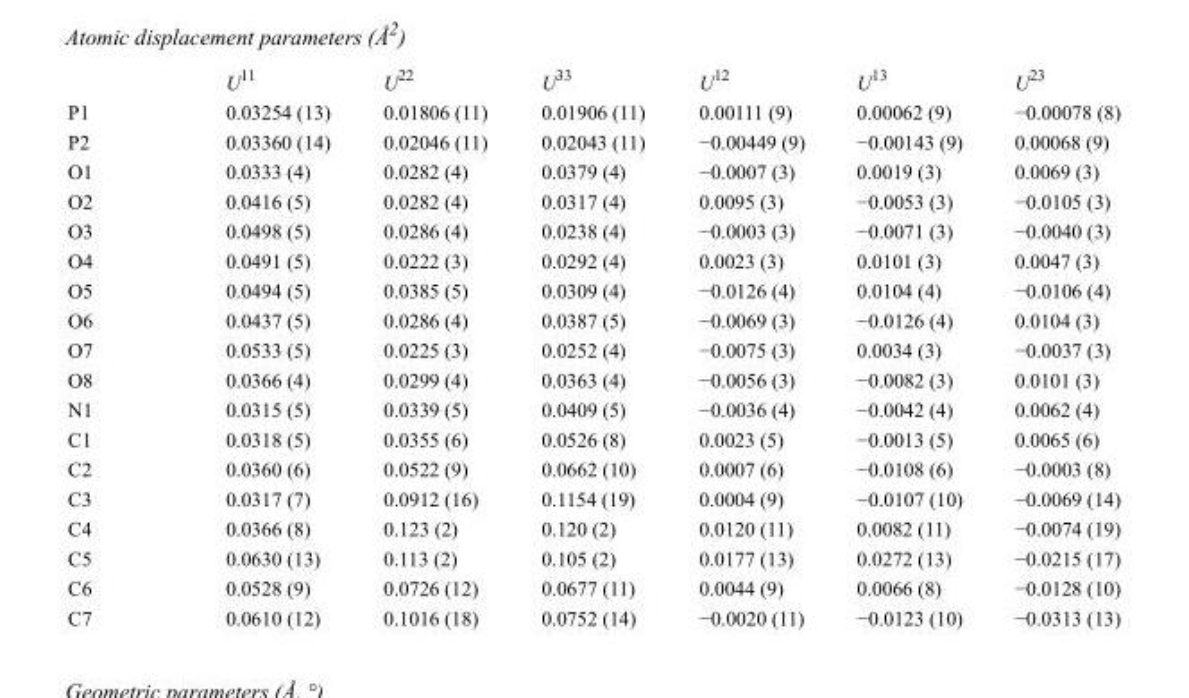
<table><thead><tr><td></td><td>U<sup>11</sup></td><td>U<sup>22</sup></td><td>U<sup>33</sup></td><td>U<sup>12</sup></td><td>U<sup>13</sup></td><td>U<sup>23</sup></td></tr></thead><tbody><tr><td>P1</td><td>0.03254 (13)</td><td>0.01806 (11)</td><td>0.01906 (11)</td><td>0.00111 (9)</td><td>0.00062 (9)</td><td>−0.00078 (8)</td></tr><tr><td>P2</td><td>0.03360 (14)</td><td>0.02046 (11)</td><td>0.02043 (11)</td><td>−0.00449 (9)</td><td>−0.00143 (9)</td><td>0.00068 (9)</td></tr><tr><td>O1</td><td>0.0333 (4)</td><td>0.0282 (4)</td><td>0.0379 (4)</td><td>−0.0007 (3)</td><td>0.0019 (3)</td><td>0.0069 (3)</td></tr><tr><td>O2</td><td>0.0416 (5)</td><td>0.0282 (4)</td><td>0.0317 (4)</td><td>0.0095 (3)</td><td>−0.0053 (3)</td><td>−0.0105 (3)</td></tr><tr><td>O3</td><td>0.0498 (5)</td><td>0.0286 (4)</td><td>0.0238 (4)</td><td>−0.0003 (3)</td><td>−0.0071 (3)</td><td>−0.0040 (3)</td></tr><tr><td>O4</td><td>0.0491 (5)</td><td>0.0222 (3)</td><td>0.0292 (4)</td><td>0.0023 (3)</td><td>0.0101 (3)</td><td>0.0047 (3)</td></tr><tr><td>O5</td><td>0.0494 (5)</td><td>0.0385 (5)</td><td>0.0309 (4)</td><td>−0.0126 (4)</td><td>0.0104 (4)</td><td>−0.0106 (4)</td></tr><tr><td>O6</td><td>0.0437 (5)</td><td>0.0286 (4)</td><td>0.0387 (5)</td><td>−0.0069 (3)</td><td>−0.0126 (4)</td><td>0.0104 (3)</td></tr><tr><td>O7</td><td>0.0533 (5)</td><td>0.0225 (3)</td><td>0.0252 (4)</td><td>−0.0075 (3)</td><td>0.0034 (3)</td><td>−0.0037 (3)</td></tr><tr><td>O8</td><td>0.0366 (4)</td><td>0.0299 (4)</td><td>0.0363 (4)</td><td>−0.0056 (3)</td><td>−0.0082 (3)</td><td>0.0101 (3)</td></tr><tr><td>N1</td><td>0.0315 (5)</td><td>0.0339 (5)</td><td>0.0409 (5)</td><td>−0.0036 (4)</td><td>−0.0042 (4)</td><td>0.0062 (4)</td></tr><tr><td>C1</td><td>0.0318 (5)</td><td>0.0355 (6)</td><td>0.0526 (8)</td><td>0.0023 (5)</td><td>−0.0013 (5)</td><td>0.0065 (6)</td></tr><tr><td>C2</td><td>0.0360 (6)</td><td>0.0522 (9)</td><td>0.0662 (10)</td><td>0.0007 (6)</td><td>−0.0108 (6)</td><td>−0.0003 (8)</td></tr><tr><td>C3</td><td>0.0317 (7)</td><td>0.0912 (16)</td><td>0.1154 (19)</td><td>0.0004 (9)</td><td>−0.0107 (10)</td><td>−0.0069 (14)</td></tr><tr><td>C4</td><td>0.0366 (8)</td><td>0.123 (2)</td><td>0.120 (2)</td><td>0.0120 (11)</td><td>0.0082 (11)</td><td>−0.0074 (19)</td></tr><tr><td>C5</td><td>0.0630 (13)</td><td>0.113 (2)</td><td>0.105 (2)</td><td>0.0177 (13)</td><td>0.0272 (13)</td><td>−0.0215 (17)</td></tr><tr><td>C6</td><td>0.0528 (9)</td><td>0.0726 (12)</td><td>0.0677 (11)</td><td>0.0044 (9)</td><td>0.0066 (8)</td><td>−0.0128 (10)</td></tr><tr><td>C7</td><td>0.0610 (12)</td><td>0.1016 (18)</td><td>0.0752 (14)</td><td>−0.0020 (11)</td><td>−0.0123 (10)</td><td>−0.0313 (13)</td></tr></tbody></table>